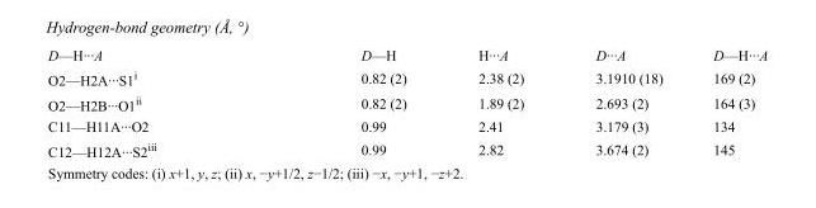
<table><tbody><tr><td>D—H···A</td><td>D—H</td><td>H···A</td><td>D···A</td><td>D—H···A</td></tr><tr><td>O2—H2A···S1<sup>i</sup></td><td>0.82 (2)</td><td>2.38 (2)</td><td>3.1910 (18)</td><td>169 (2)</td></tr><tr><td>O2—H2B···O1<sup>ii</sup></td><td>0.82 (2)</td><td>1.89 (2)</td><td>2.693 (2)</td><td>164 (3)</td></tr><tr><td>C11—H11A···O2</td><td>0.99</td><td>2.41</td><td>3.179 (3)</td><td>134</td></tr><tr><td>C12—H12A···S2<sup>iii</sup></td><td>0.99</td><td>2.82</td><td>3.674 (2)</td><td>145</td></tr></tbody></table>